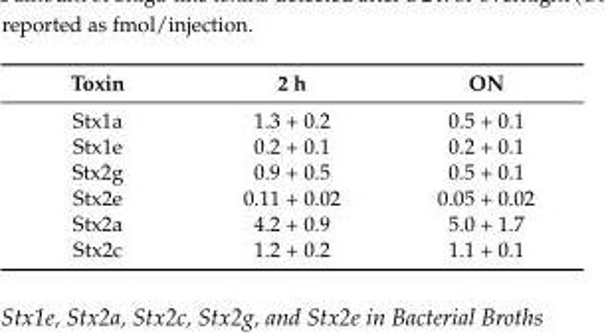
<table><thead><tr><td>Toxin</td><td>2 h</td><td>ON</td></tr></thead><tbody><tr><td>Stx1a</td><td>1.3 + 0.2</td><td>0.5 + 0.1</td></tr><tr><td>Stx1e</td><td>0.2 + 0.1</td><td>0.2 + 0.1</td></tr><tr><td>Stx2g</td><td>0.9 + 0.5</td><td>0.5 + 0.1</td></tr><tr><td>Stx2e</td><td>0.11 + 0.02</td><td>0.05 + 0.02</td></tr><tr><td>Stx2a</td><td>4.2 + 0.9</td><td>5.0 + 1.7</td></tr><tr><td>Stx2c</td><td>1.2 + 0.2</td><td>1.1 + 0.1</td></tr></tbody></table>